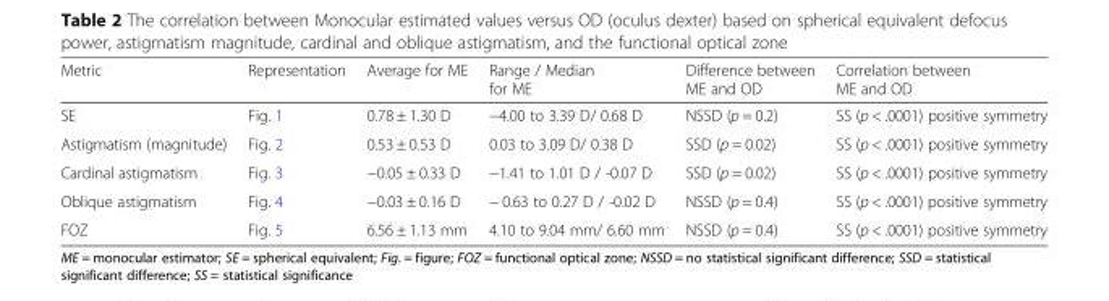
<table><thead><tr><td>Metric</td><td>Representation</td><td>Average for ME</td><td>Range / Median for ME</td><td>Difference between ME and OD</td><td>Correlation between ME and OD</td></tr></thead><tbody><tr><td>SE</td><td>Fig. 1</td><td>0.78 ± 1.30 D</td><td>−4.00 to 3.39 D/ 0.68 D</td><td>NSSD (p = 0.2)</td><td>SS (p &lt; .0001) positive symmetry</td></tr><tr><td>Astigmatism (magnitude)</td><td>Fig. 2</td><td>0.53 ± 0.53 D</td><td>0.03 to 3.09 D/ 0.38 D</td><td>SSD (p = 0.02)</td><td>SS (p &lt; .0001) positive symmetry</td></tr><tr><td>Cardinal astigmatism</td><td>Fig. 3</td><td>−0.05 ± 0.33 D</td><td>−1.41 to 1.01 D / -0.07 D</td><td>SSD (p = 0.02)</td><td>SS (p &lt; .0001) positive symmetry</td></tr><tr><td>Oblique astigmatism</td><td>Fig. 4</td><td>−0.03 ± 0.16 D</td><td>− 0.63 to 0.27 D / -0.02 D</td><td>NSSD (p = 0.4)</td><td>SS (p &lt; .0001) positive symmetry</td></tr><tr><td>FOZ</td><td>Fig. 5</td><td>6.56 ± 1.13 mm</td><td>4.10 to 9.04 mm/ 6.60 mm</td><td>NSSD (p = 0.4)</td><td>SS (p &lt; .0001) positive symmetry</td></tr></tbody></table>